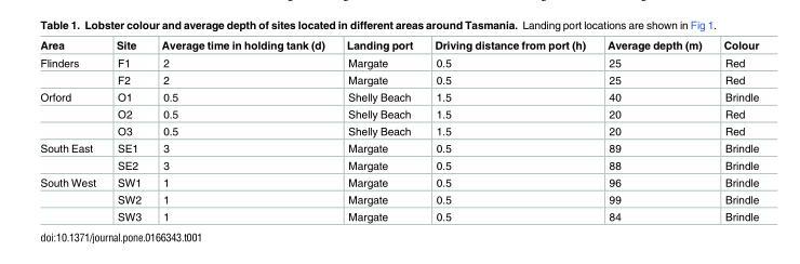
<table><thead><tr><td>Area</td><td>Site</td><td>Average time in holding tank (d)</td><td>Landing port</td><td>Driving distance from port (h)</td><td>Average depth (m)</td><td>Colour</td></tr></thead><tbody><tr><td rowspan="2">Flinders</td><td>F1</td><td>2</td><td>Margate</td><td>0.5</td><td>25</td><td>Red</td></tr><tr><td>F2</td><td>2</td><td>Margate</td><td>0.5</td><td>25</td><td>Red</td></tr><tr><td rowspan="3">Orford</td><td>O1</td><td>0.5</td><td>Shelly Beach</td><td>1.5</td><td>40</td><td>Brindle</td></tr><tr><td>O2</td><td>0.5</td><td>Shelly Beach</td><td>1.5</td><td>20</td><td>Red</td></tr><tr><td>O3</td><td>0.5</td><td>Shelly Beach</td><td>1.5</td><td>20</td><td>Red</td></tr><tr><td rowspan="2">South East</td><td>SE1</td><td>3</td><td>Margate</td><td>0.5</td><td>89</td><td>Brindle</td></tr><tr><td>SE2</td><td>3</td><td>Margate</td><td>0.5</td><td>88</td><td>Brindle</td></tr><tr><td rowspan="3">South West</td><td>SW1</td><td>1</td><td>Margate</td><td>0.5</td><td>96</td><td>Brindle</td></tr><tr><td>SW2</td><td>1</td><td>Margate</td><td>0.5</td><td>99</td><td>Brindle</td></tr><tr><td>SW3</td><td>1</td><td>Margate</td><td>0.5</td><td>84</td><td>Brindle</td></tr></tbody></table>